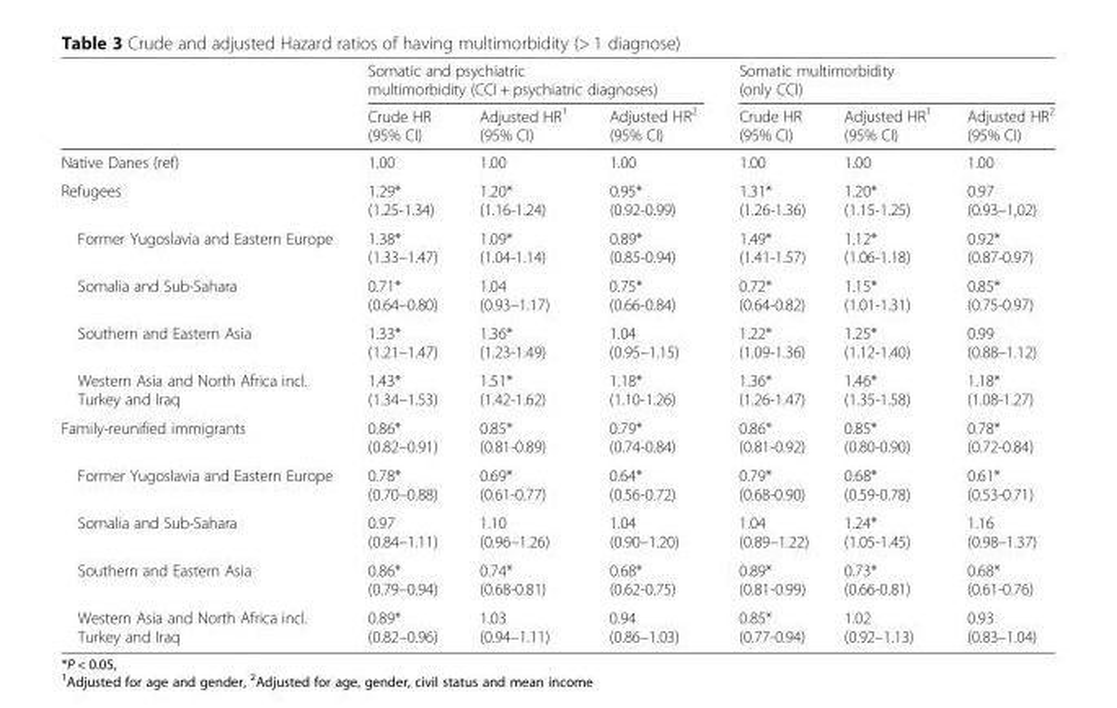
<table><thead><tr><td rowspan="2"></td><td colspan="3">Somatic and psychiatric multimorbidity (CCI + psychiatric diagnoses)</td><td colspan="3">Somatic multimorbidity (only CCI)</td></tr><tr><td>Crude HR (95% CI)</td><td>Adjusted HR<sup>1</sup> (95% CI)</td><td>Adjusted HR<sup>2</sup> (95% CI)</td><td>Crude HR (95% CI)</td><td>Adjusted HR<sup>1</sup> (95% CI)</td><td>Adjusted HR<sup>2</sup> (95% CI)</td></tr></thead><tbody><tr><td>Native Danes (ref)</td><td>1.00</td><td>1.00</td><td>1.00</td><td>1.00</td><td>1.00</td><td>1.00</td></tr><tr><td>Refugees</td><td>1.29* (1.25-1.34)</td><td>1.20* (1.16-1.24)</td><td>0.95* (0.92-0.99)</td><td>1.31* (1.26-1.36)</td><td>1.20* (1.15-1.25)</td><td>0.97 (0.93–1,02)</td></tr><tr><td>Former Yugoslavia and Eastern Europe</td><td>1.38* (1.33–1.47)</td><td>1.09* (1.04-1.14)</td><td>0.89* (0.85-0.94)</td><td>1.49* (1.41-1.57)</td><td>1.12* (1.06-1.18)</td><td>0.92* (0.87-0.97)</td></tr><tr><td>Somalia and Sub-Sahara</td><td>0.71* (0.64–0.80)</td><td>1.04 (0.93–1.17)</td><td>0.75* (0.66-0.84)</td><td>0.72* (0.64-0.82)</td><td>1.15* (1.01-1.31)</td><td>0.85* (0.75-0.97)</td></tr><tr><td>Southern and Eastern Asia</td><td>1.33* (1.21–1.47)</td><td>1.36* (1.23-1.49)</td><td>1.04 (0.95–1.15)</td><td>1.22* (1.09-1.36)</td><td>1.25* (1.12-1.40)</td><td>0.99 (0.88–1.12)</td></tr><tr><td>Western Asia and North Africa incl. Turkey and Iraq</td><td>1.43* (1.34–1.53)</td><td>1.51* (1.42-1.62)</td><td>1.18* (1.10-1.26)</td><td>1.36* (1.26-1.47)</td><td>1.46* (1.35-1.58)</td><td>1.18* (1.08-1.27)</td></tr><tr><td>Family-reunified immigrants</td><td>0.86* (0.82–0.91)</td><td>0.85* (0.81-0.89)</td><td>0.79* (0.74-0.84)</td><td>0.86* (0.81-0.92)</td><td>0.85* (0.80-0.90)</td><td>0.78* (0.72-0.84)</td></tr><tr><td>Former Yugoslavia and Eastern Europe</td><td>0.78* (0.70–0.88)</td><td>0.69* (0.61-0.77)</td><td>0.64* (0.56-0.72)</td><td>0.79* (0.68-0.90)</td><td>0.68* (0.59-0.78)</td><td>0.61* (0.53-0.71)</td></tr><tr><td>Somalia and Sub-Sahara</td><td>0.97 (0.84–1.11)</td><td>1.10 (0.96–1.26)</td><td>1.04 (0.90–1.20)</td><td>1.04 (0.89–1.22)</td><td>1.24* (1.05-1.45)</td><td>1.16 (0.98–1.37)</td></tr><tr><td>Southern and Eastern Asia</td><td>0.86* (0.79–0.94)</td><td>0.74* (0.68-0.81)</td><td>0.68* (0.62-0.75)</td><td>0.89* (0.81-0.99)</td><td>0.73* (0.66-0.81)</td><td>0.68* (0.61-0.76)</td></tr><tr><td>Western Asia and North Africa incl. Turkey and Iraq</td><td>0.89* (0.82–0.96)</td><td>1.03 (0.94–1.11)</td><td>0.94 (0.86–1.03)</td><td>0.85* (0.77-0.94)</td><td>1.02 (0.92–1.13)</td><td>0.93 (0.83–1.04)</td></tr></tbody></table>